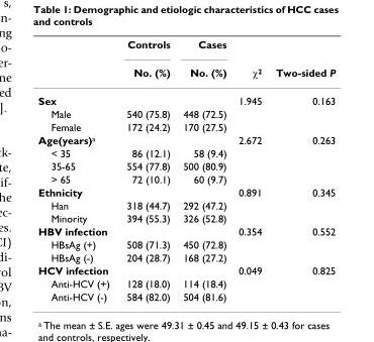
<table><thead><tr><td rowspan="2"></td><td rowspan="2">Controls No. (%)</td><td rowspan="2">Cases No. (%)</td><td rowspan="2">χ<sup>2</sup></td><td rowspan="2">Two-sided P</td></tr><tr></tr></thead><tbody><tr><td>Sex</td><td></td><td></td><td>1.945</td><td>0.163</td></tr><tr><td>Male</td><td>540 (75.8)</td><td>448 (72.5)</td><td></td><td></td></tr><tr><td>Female</td><td>172 (24.2)</td><td>170 (27.5)</td><td></td><td></td></tr><tr><td>Age(years)<sup>a</sup></td><td></td><td></td><td>2.672</td><td>0.263</td></tr><tr><td>&lt; 35</td><td>86 (12.1)</td><td>58 (9.4)</td><td></td><td></td></tr><tr><td>35-65</td><td>554 (77.8)</td><td>500 (80.9)</td><td></td><td></td></tr><tr><td>&gt; 65</td><td>72 (10.1)</td><td>60 (9.7)</td><td></td><td></td></tr><tr><td>Ethnicity</td><td></td><td></td><td>0.891</td><td>0.345</td></tr><tr><td>Han</td><td>318 (44.7)</td><td>292 (47.2)</td><td></td><td></td></tr><tr><td>Minority</td><td>394 (55.3)</td><td>326 (52.8)</td><td></td><td></td></tr><tr><td>HBV infection</td><td></td><td></td><td>0.354</td><td>0.552</td></tr><tr><td>HBsAg (+)</td><td>508 (71.3)</td><td>450 (72.8)</td><td></td><td></td></tr><tr><td>HBsAg (-)</td><td>204 (28.7)</td><td>168 (27.2)</td><td></td><td></td></tr><tr><td>HCV infection</td><td></td><td></td><td>0.049</td><td>0.825</td></tr><tr><td>Anti-HCV (+)</td><td>128 (18.0)</td><td>114 (18.4)</td><td></td><td></td></tr><tr><td>Anti-HCV (-)</td><td>584 (82.0)</td><td>504 (81.6)</td><td></td><td></td></tr></tbody></table>